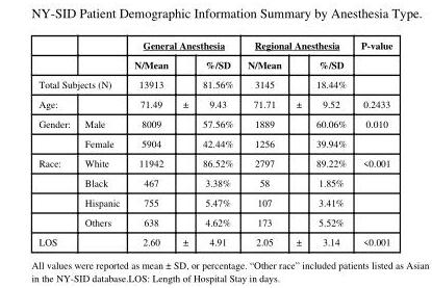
<table><thead><tr><td rowspan="2"></td><td rowspan="2"></td><td colspan="3">General Anesthesia</td><td colspan="3">Regional Anesthesia</td><td rowspan="2">P-value</td></tr><tr><td>N/Mean</td><td></td><td>%/SD</td><td>N/Mean</td><td></td><td>%/SD</td></tr></thead><tbody><tr><td colspan="2">Total Subjects (N)</td><td>13913</td><td></td><td>81.56%</td><td>3145</td><td></td><td>18.44%</td><td></td></tr><tr><td>Age:</td><td></td><td>71.49</td><td>±</td><td>9.43</td><td>71.71</td><td>±</td><td>9.52</td><td>0.2433</td></tr><tr><td rowspan="2">Gender:</td><td>Male</td><td>8009</td><td></td><td>57.56%</td><td>1889</td><td></td><td>60.06%</td><td>0.010</td></tr><tr><td>Female</td><td>5904</td><td></td><td>42.44%</td><td>1256</td><td></td><td>39.94%</td><td></td></tr><tr><td rowspan="4">Race:</td><td>White</td><td>11942</td><td></td><td>86.52%</td><td>2797</td><td></td><td>89.22%</td><td>&lt;0.001</td></tr><tr><td>Black</td><td>467</td><td></td><td>3.38%</td><td>58</td><td></td><td>1.85%</td><td></td></tr><tr><td>Hispanic</td><td>755</td><td></td><td>5.47%</td><td>107</td><td></td><td>3.41%</td><td></td></tr><tr><td>Others</td><td>638</td><td></td><td>4.62%</td><td>173</td><td></td><td>5.52%</td><td></td></tr><tr><td>LOS</td><td></td><td>2.60</td><td>±</td><td>4.91</td><td>2.05</td><td>±</td><td>3.14</td><td>&lt;0.001</td></tr></tbody></table>